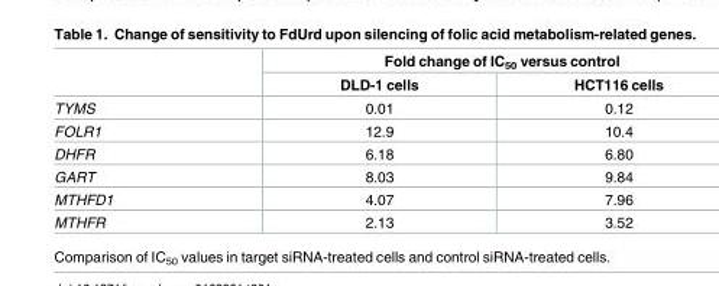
<table><thead><tr><td rowspan="2"></td><td colspan="2">Fold change of IC<sub>50</sub> versus control</td></tr><tr><td>DLD-1 cells</td><td>HCT116 cells</td></tr></thead><tbody><tr><td>TYMS</td><td>0.01</td><td>0.12</td></tr><tr><td>FOLR1</td><td>12.9</td><td>10.4</td></tr><tr><td>DHFR</td><td>6.18</td><td>6.80</td></tr><tr><td>GART</td><td>8.03</td><td>9.84</td></tr><tr><td>MTHFD1</td><td>4.07</td><td>7.96</td></tr><tr><td>MTHFR</td><td>2.13</td><td>3.52</td></tr></tbody></table>